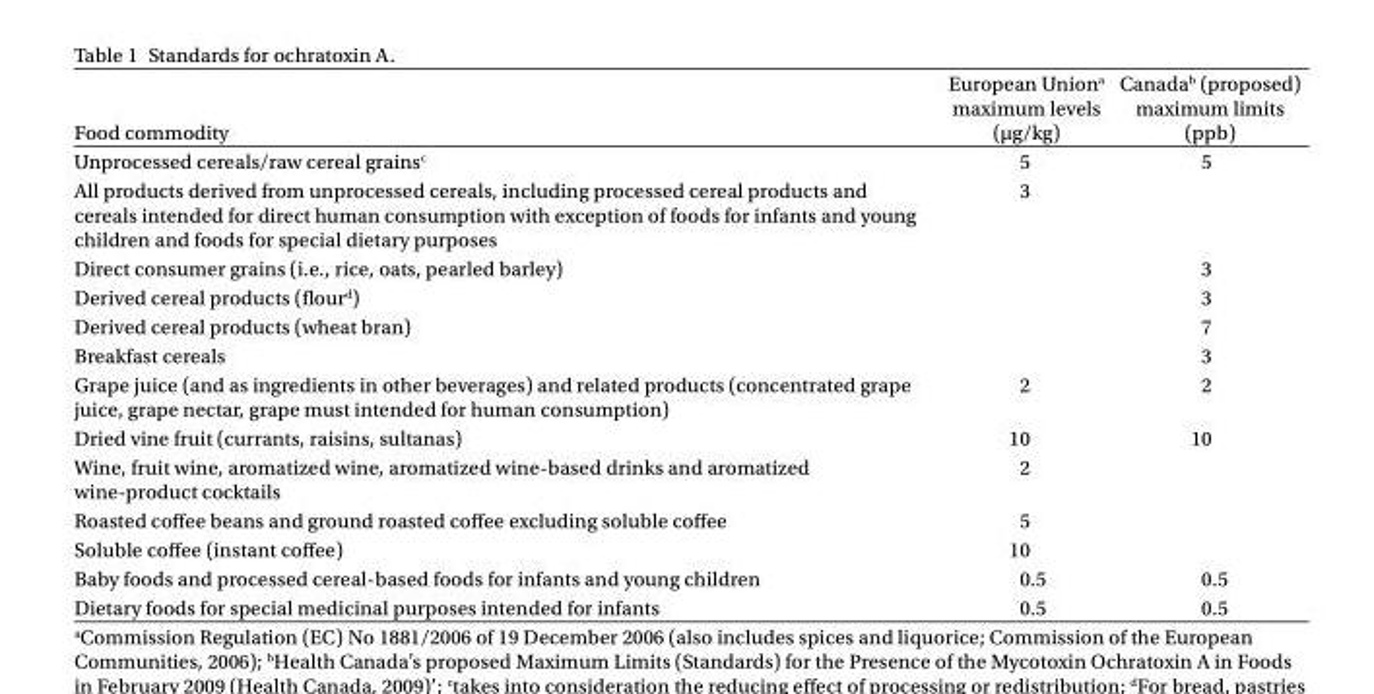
<table><thead><tr><td>Food commodity</td><td>European Union<sup>a</sup> maximum levels (µg/kg)</td><td>Canada<sup>b</sup> (proposed) maximum limits (ppb)</td></tr></thead><tbody><tr><td>Unprocessed cereals/raw cereal grains<sup>c</sup></td><td>5</td><td>5</td></tr><tr><td>All products derived from unprocessed cereals, including processed cereal products and cereals intended for direct human consumption with exception of foods for infants and young children and foods for special dietary purposes</td><td>3</td><td></td></tr><tr><td>Direct consumer grains (i.e., rice, oats, pearled barley)</td><td></td><td>3</td></tr><tr><td>Derived cereal products (flour<sup>d</sup>)</td><td></td><td>3</td></tr><tr><td>Derived cereal products (wheat bran)</td><td></td><td>7</td></tr><tr><td>Breakfast cereals</td><td></td><td>3</td></tr><tr><td>Grape juice (and as ingredients in other beverages) and related products (concentrated grape juice, grape nectar, grape must intended for human consumption)</td><td>2</td><td>2</td></tr><tr><td>Dried vine fruit (currants, raisins, sultanas)</td><td>10</td><td>10</td></tr><tr><td>Wine, fruit wine, aromatized wine, aromatized wine-based drinks and aromatized wine-product cocktails</td><td>2</td><td></td></tr><tr><td>Roasted coffee beans and ground roasted coffee excluding soluble coffee</td><td>5</td><td></td></tr><tr><td>Soluble coffee (instant coffee)</td><td>10</td><td></td></tr><tr><td>Baby foods and processed cereal-based foods for infants and young children</td><td>0.5</td><td>0.5</td></tr><tr><td>Dietary foods for special medicinal purposes intended for infants</td><td>0.5</td><td>0.5</td></tr></tbody></table>